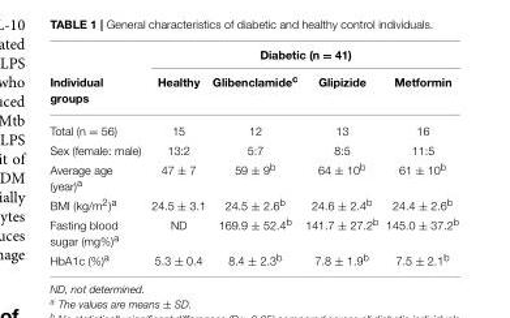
<table><thead><tr><td rowspan="2">Individual groups</td><td colspan="4">Diabetic (n = 41)</td></tr><tr><td>Healthy</td><td>Glibenclamide<sup>c</sup></td><td>Glipizide</td><td>Metformin</td></tr></thead><tbody><tr><td>Total (n = 56)</td><td>15</td><td>12</td><td>13</td><td>16</td></tr><tr><td>Sex (female: male)</td><td>13:2</td><td>5:7</td><td>8:5</td><td>11:5</td></tr><tr><td>Average age (year)<sup>a</sup></td><td>47 ± 7</td><td>59 ± 9<sup>b</sup></td><td>64 ± 10<sup>b</sup></td><td>61 ± 10<sup>b</sup></td></tr><tr><td>BMI (kg/m<sup>2</sup>)<sup>a</sup></td><td>24.5 ± 3.1</td><td>24.5 ± 2.6<sup>b</sup></td><td>24.6 ± 2.4<sup>b</sup></td><td>24.4 ± 2.6<sup>b</sup></td></tr><tr><td>Fasting blood sugar (mg%)<sup>a</sup></td><td>ND</td><td>169.9 ± 52.4<sup>b</sup></td><td>141.7 ± 27.2<sup>b</sup></td><td>145.0 ± 37.2<sup>b</sup></td></tr><tr><td>HbA1c (%)<sup>a</sup></td><td>5.3 ± 0.4</td><td>8.4 ± 2.3<sup>b</sup></td><td>7.8 ± 1.9<sup>b</sup></td><td>7.5 ± 2.1<sup>b</sup></td></tr></tbody></table>